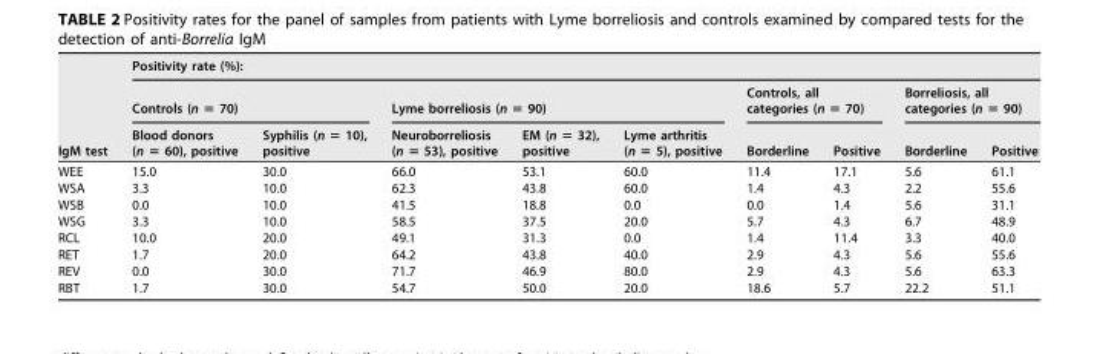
<table><thead><tr><td rowspan="3">IgM test</td><td colspan="9">Positivity rate (%):</td></tr><tr><td colspan="2">Controls (n = 70)</td><td colspan="3">Lyme borreliosis (n = 90)</td><td colspan="2">Controls, all categories (n = 70)</td><td colspan="2">Borreliosis, all categories (n = 90)</td></tr><tr><td>Blood donors (n = 60), positive</td><td>Syphilis (n = 10), positive</td><td>Neuroborreliosis (n = 53), positive</td><td>EM (n = 32), positive</td><td>Lyme arthritis (n = 5), positive</td><td>Borderline</td><td>Positive</td><td>Borderline</td><td>Positive</td></tr></thead><tbody><tr><td>WEE</td><td>15.0</td><td>30.0</td><td>66.0</td><td>53.1</td><td>60.0</td><td>11.4</td><td>17.1</td><td>5.6</td><td>61.1</td></tr><tr><td>WSA</td><td>3.3</td><td>10.0</td><td>62.3</td><td>43.8</td><td>60.0</td><td>1.4</td><td>4.3</td><td>2.2</td><td>55.6</td></tr><tr><td>WSB</td><td>0.0</td><td>10.0</td><td>41.5</td><td>18.8</td><td>0.0</td><td>0.0</td><td>1.4</td><td>5.6</td><td>31.1</td></tr><tr><td>WSG</td><td>3.3</td><td>10.0</td><td>58.5</td><td>37.5</td><td>20.0</td><td>5.7</td><td>4.3</td><td>6.7</td><td>48.9</td></tr><tr><td>RCL</td><td>10.0</td><td>20.0</td><td>49.1</td><td>31.3</td><td>0.0</td><td>1.4</td><td>11.4</td><td>3.3</td><td>40.0</td></tr><tr><td>RET</td><td>1.7</td><td>20.0</td><td>64.2</td><td>43.8</td><td>40.0</td><td>2.9</td><td>4.3</td><td>5.6</td><td>55.6</td></tr><tr><td>REV</td><td>0.0</td><td>30.0</td><td>71.7</td><td>46.9</td><td>80.0</td><td>2.9</td><td>4.3</td><td>5.6</td><td>63.3</td></tr><tr><td>RBT</td><td>1.7</td><td>30.0</td><td>54.7</td><td>50.0</td><td>20.0</td><td>18.6</td><td>5.7</td><td>22.2</td><td>51.1</td></tr></tbody></table>